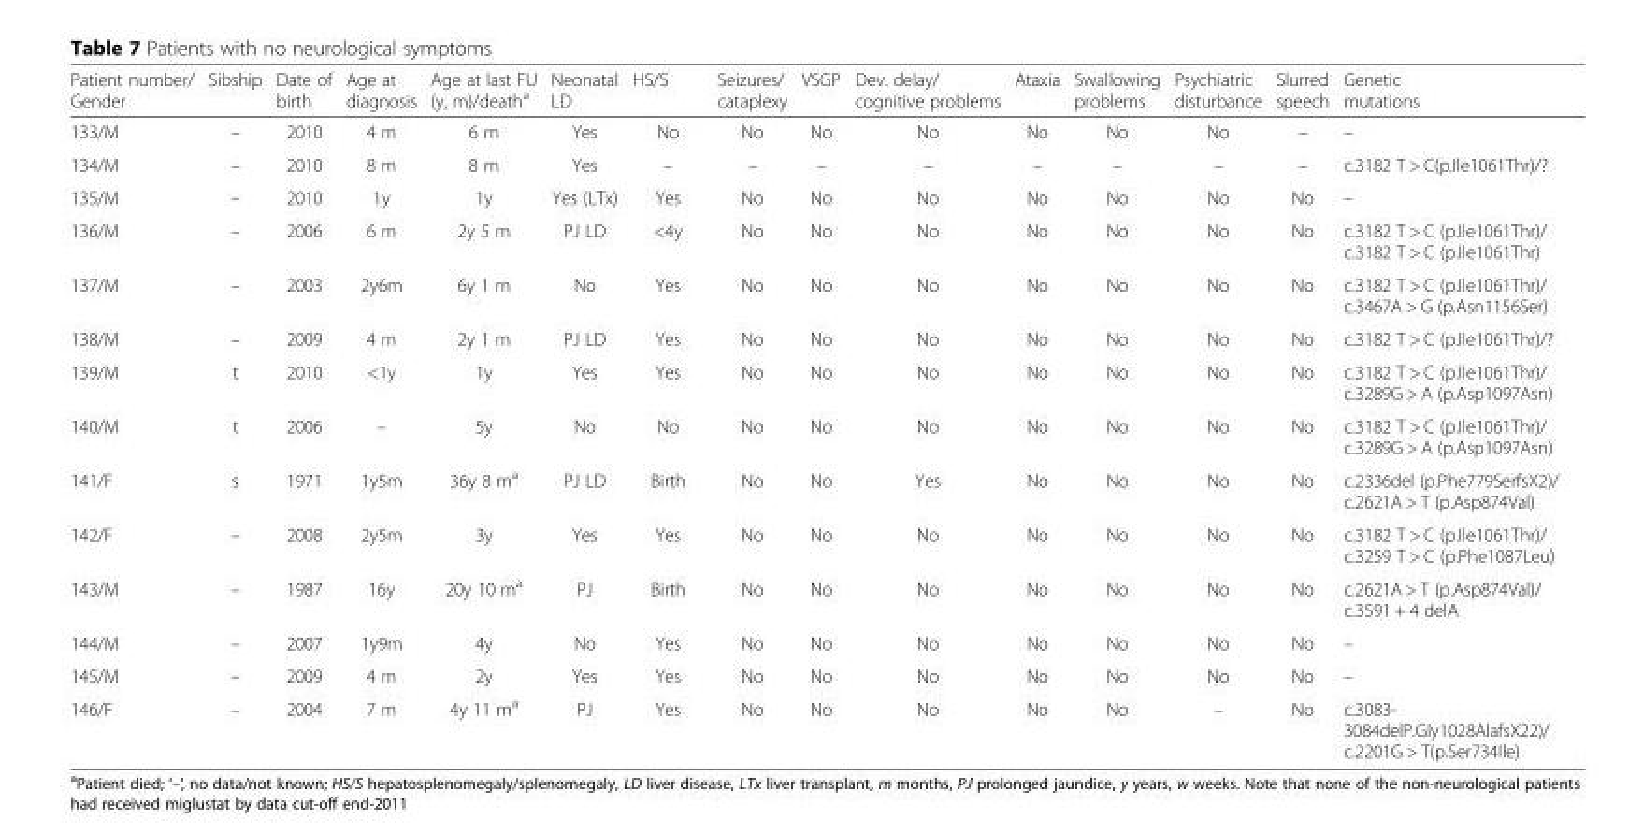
<table><thead><tr><td>Patient number/ Gender</td><td>Sibship</td><td>Date of birth</td><td>Age at diagnosis</td><td>Age at last FU (y, m)/death<sup>a</sup></td><td>Neonatal LD</td><td>HS/S</td><td>Seizures/ cataplexy</td><td>VSGP</td><td>Dev. delay/ cognitive problems</td><td>Ataxia</td><td>Swallowing problems</td><td>Psychiatric disturbance</td><td>Slurred speech</td><td>Genetic mutations</td></tr></thead><tbody><tr><td>133/M</td><td>–</td><td>2010</td><td>4 m</td><td>6 m</td><td>Yes</td><td>No</td><td>No</td><td>No</td><td>No</td><td>No</td><td>No</td><td>No</td><td>–</td><td>–</td></tr><tr><td>134/M</td><td>–</td><td>2010</td><td>8 m</td><td>8 m</td><td>Yes</td><td>–</td><td>–</td><td>–</td><td>–</td><td>–</td><td>–</td><td>–</td><td>–</td><td>c.3182 T &gt; C(p.Ile1061Thr)/?</td></tr><tr><td>135/M</td><td>–</td><td>2010</td><td>1y</td><td>1y</td><td>Yes (LTx)</td><td>Yes</td><td>No</td><td>No</td><td>No</td><td>No</td><td>No</td><td>No</td><td>No</td><td>–</td></tr><tr><td>136/M</td><td>–</td><td>2006</td><td>6 m</td><td>2y 5 m</td><td>PJ LD</td><td>&lt;4y</td><td>No</td><td>No</td><td>No</td><td>No</td><td>No</td><td>No</td><td>No</td><td>c.3182 T &gt; C (p.Ile1061Thr)/ c.3182 T &gt; C (p.Ile1061Thr)</td></tr><tr><td>137/M</td><td>–</td><td>2003</td><td>2y6m</td><td>6y 1 m</td><td>No</td><td>Yes</td><td>No</td><td>No</td><td>No</td><td>No</td><td>No</td><td>No</td><td>No</td><td>c.3182 T &gt; C (p.Ile1061Thr)/ c.3467A &gt; G (p.Asn1156Ser)</td></tr><tr><td>138/M</td><td>–</td><td>2009</td><td>4 m</td><td>2y 1 m</td><td>PJ LD</td><td>Yes</td><td>No</td><td>No</td><td>No</td><td>No</td><td>No</td><td>No</td><td>No</td><td>c.3182 T &gt; C (p.Ile1061Thr)/?</td></tr><tr><td>139/M</td><td>t</td><td>2010</td><td>&lt;1y</td><td>1y</td><td>Yes</td><td>Yes</td><td>No</td><td>No</td><td>No</td><td>No</td><td>No</td><td>No</td><td>No</td><td>c.3182 T &gt; C (p.Ile1061Thr)/ c.3289G &gt; A (p.Asp1097Asn)</td></tr><tr><td>140/M</td><td>t</td><td>2006</td><td>–</td><td>5y</td><td>No</td><td>No</td><td>No</td><td>No</td><td>No</td><td>No</td><td>No</td><td>No</td><td>No</td><td>c.3182 T &gt; C (p.Ile1061Thr)/ c.3289G &gt; A (p.Asp1097Asn)</td></tr><tr><td>141/F</td><td>s</td><td>1971</td><td>1y5m</td><td>36y 8 m<sup>a</sup></td><td>PJ LD</td><td>Birth</td><td>No</td><td>No</td><td>Yes</td><td>No</td><td>No</td><td>No</td><td>No</td><td>c.2336del (p.Phe779SerfsX2)/ c.2621A &gt; T (p.Asp874Val)</td></tr><tr><td>142/F</td><td>–</td><td>2008</td><td>2y5m</td><td>3y</td><td>Yes</td><td>Yes</td><td>No</td><td>No</td><td>No</td><td>No</td><td>No</td><td>No</td><td>No</td><td>c.3182 T &gt; C (p.Ile1061Thr)/ c.3259 T &gt; C (p.Phe1087Leu)</td></tr><tr><td>143/M</td><td>–</td><td>1987</td><td>16y</td><td>20y 10 m<sup>a</sup></td><td>PJ</td><td>Birth</td><td>No</td><td>No</td><td>No</td><td>No</td><td>No</td><td>No</td><td>No</td><td>c.2621A &gt; T (p.Asp874Val)/ c.3591 + 4 delA</td></tr><tr><td>144/M</td><td>–</td><td>2007</td><td>1y9m</td><td>4y</td><td>No</td><td>Yes</td><td>No</td><td>No</td><td>No</td><td>No</td><td>No</td><td>No</td><td>No</td><td>–</td></tr><tr><td>145/M</td><td>–</td><td>2009</td><td>4 m</td><td>2y</td><td>Yes</td><td>Yes</td><td>No</td><td>No</td><td>No</td><td>No</td><td>No</td><td>No</td><td>No</td><td>–</td></tr><tr><td>146/F</td><td>–</td><td>2004</td><td>7 m</td><td>4y 11 m<sup>a</sup></td><td>PJ</td><td>Yes</td><td>No</td><td>No</td><td>No</td><td>No</td><td>No</td><td>–</td><td>No</td><td>c.3083- 3084delP.Gly1028AlafsX22)/ c.2201G &gt; T(p.Ser734Ile)</td></tr></tbody></table>